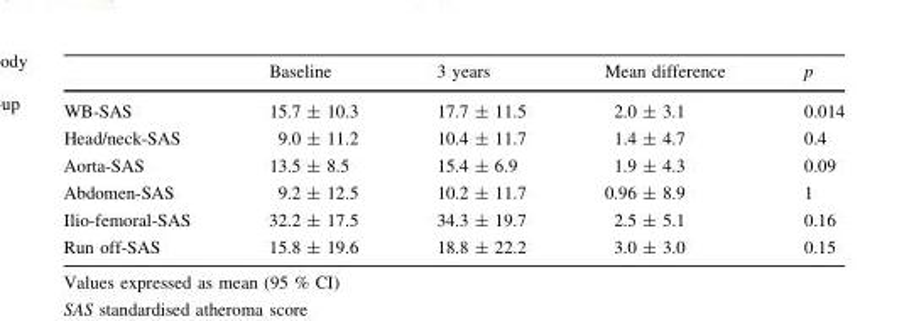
<table><thead><tr><td></td><td>Baseline</td><td>3 years</td><td>Mean difference</td><td>p</td></tr></thead><tbody><tr><td>WB-SAS</td><td>15.7 ± 10.3</td><td>17.7 ± 11.5</td><td>2.0 ± 3.1</td><td>0.014</td></tr><tr><td>Head/neck-SAS</td><td>9.0 ± 11.2</td><td>10.4 ± 11.7</td><td>1.4 ± 4.7</td><td>0.4</td></tr><tr><td>Aorta-SAS</td><td>13.5 ± 8.5</td><td>15.4 ± 6.9</td><td>1.9 ± 4.3</td><td>0.09</td></tr><tr><td>Abdomen-SAS</td><td>9.2 ± 12.5</td><td>10.2 ± 11.7</td><td>0.96 ± 8.9</td><td>1</td></tr><tr><td>Ilio-femoral-SAS</td><td>32.2 ± 17.5</td><td>34.3 ± 19.7</td><td>2.5 ± 5.1</td><td>0.16</td></tr><tr><td>Run off-SAS</td><td>15.8 ± 19.6</td><td>18.8 ± 22.2</td><td>3.0 ± 3.0</td><td>0.15</td></tr></tbody></table>